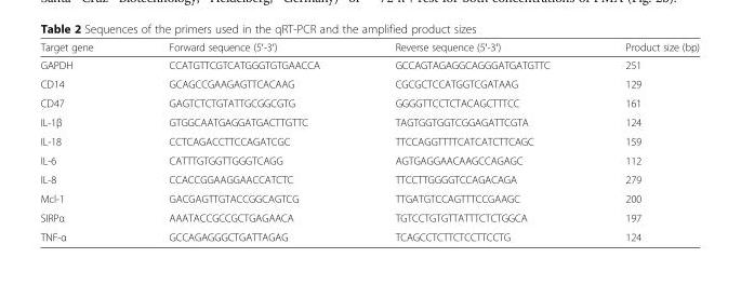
<table><thead><tr><td>Target gene</td><td>Forward sequence (5′-3′)</td><td>Reverse sequence (5′-3′)</td><td>Product size (bp)</td></tr></thead><tbody><tr><td>GAPDH</td><td>CCATGTTCGTCATGGGTGTGAACCA</td><td>GCCAGTAGAGGCAGGGATGATGTTC</td><td>251</td></tr><tr><td>CD14</td><td>GCAGCCGAAGAGTTCACAAG</td><td>CGCGCTCCATGGTCGATAAG</td><td>129</td></tr><tr><td>CD47</td><td>GAGTCTCTGTATTGCGGCGTG</td><td>GGGGTTCCTCTACAGCTTTCC</td><td>161</td></tr><tr><td>IL-1β</td><td>GTGGCAATGAGGATGACTTGTTC</td><td>TAGTGGTGGTCGGAGATTCGTA</td><td>124</td></tr><tr><td>IL-18</td><td>CCTCAGACCTTCCAGATCGC</td><td>TTCCAGGTTTTCATCATCTTCAGC</td><td>159</td></tr><tr><td>IL-6</td><td>CATTTGTGGTTGGGTCAGG</td><td>AGTGAGGAACAAGCCAGAGC</td><td>112</td></tr><tr><td>IL-8</td><td>CCACCGGAAGGAACCATCTC</td><td>TTCCTTGGGGTCCAGACAGA</td><td>279</td></tr><tr><td>Mcl-1</td><td>GACGAGTTGTACCGGCAGTCG</td><td>TTGATGTCCAGTTTCCGAAGC</td><td>200</td></tr><tr><td>SIRPα</td><td>AAATACCGCCGCTGAGAACA</td><td>TGTCCTGTGTTATTTCTCTGGCA</td><td>197</td></tr><tr><td>TNF-α</td><td>GCCAGAGGGCTGATTAGAG</td><td>TCAGCCTCTTCTCCTTCCTG</td><td>124</td></tr></tbody></table>